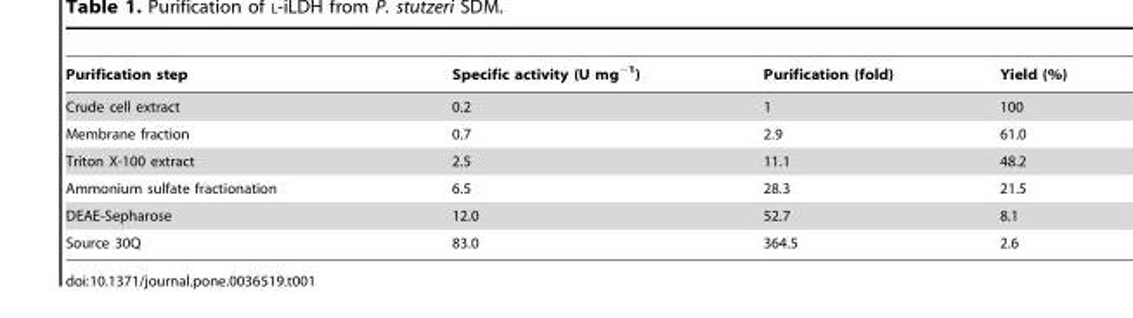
<table><thead><tr><td>Purification step</td><td>Specific activity (U mg<sup>−1</sup>)</td><td>Purification (fold)</td><td>Yield (%)</td></tr></thead><tbody><tr><td>Crude cell extract</td><td>0.2</td><td>1</td><td>100</td></tr><tr><td>Membrane fraction</td><td>0.7</td><td>2.9</td><td>61.0</td></tr><tr><td>Triton X-100 extract</td><td>2.5</td><td>11.1</td><td>48.2</td></tr><tr><td>Ammonium sulfate fractionation</td><td>6.5</td><td>28.3</td><td>21.5</td></tr><tr><td>DEAE-Sepharose</td><td>12.0</td><td>52.7</td><td>8.1</td></tr><tr><td>Source 30Q</td><td>83.0</td><td>364.5</td><td>2.6</td></tr></tbody></table>